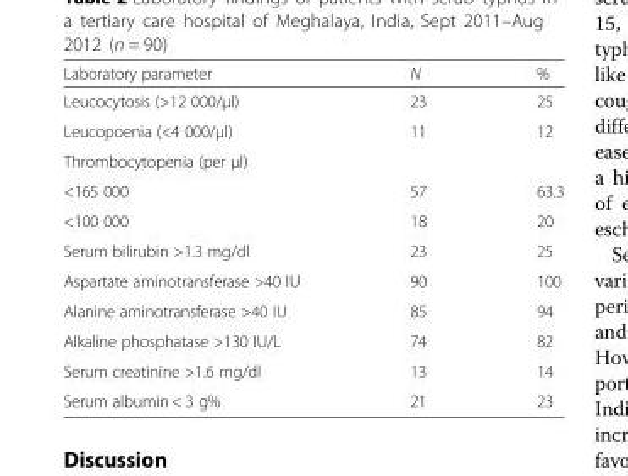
<table><thead><tr><td>Laboratory parameter</td><td>N</td><td>%</td></tr></thead><tbody><tr><td>Leucocytosis (&gt;12 000/μl)</td><td>23</td><td>25</td></tr><tr><td>Leucopoenia (&lt;4 000/μl)</td><td>11</td><td>12</td></tr><tr><td colspan="3">Thrombocytopenia (per μl)</td></tr><tr><td>&lt;165 000</td><td>57</td><td>63.3</td></tr><tr><td>&lt;100 000</td><td>18</td><td>20</td></tr><tr><td>Serum bilirubin &gt;1.3 mg/dl</td><td>23</td><td>25</td></tr><tr><td>Aspartate aminotransferase &gt;40 IU</td><td>90</td><td>100</td></tr><tr><td>Alanine aminotransferase &gt;40 IU</td><td>85</td><td>94</td></tr><tr><td>Alkaline phosphatase &gt;130 IU/L</td><td>74</td><td>82</td></tr><tr><td>Serum creatinine &gt;1.6 mg/dl</td><td>13</td><td>14</td></tr><tr><td>Serum albumin &lt; 3 g%</td><td>21</td><td>23</td></tr></tbody></table>